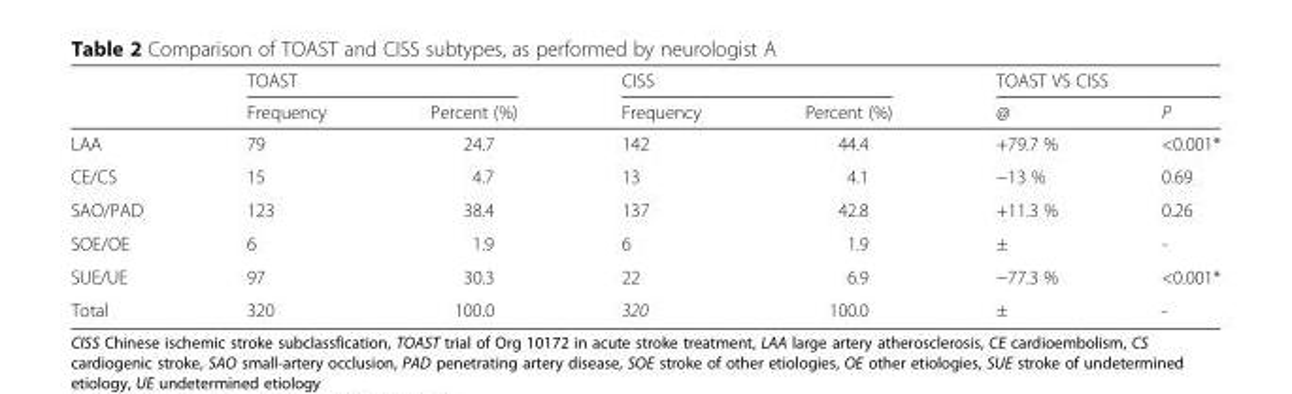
<table><thead><tr><td rowspan="2"></td><td colspan="2">TOAST</td><td colspan="2">CISS</td><td colspan="2">TOAST VS CISS</td></tr><tr><td>Frequency</td><td>Percent (%)</td><td>Frequency</td><td>Percent (%)</td><td>@</td><td>P</td></tr></thead><tbody><tr><td>LAA</td><td>79</td><td>24.7</td><td>142</td><td>44.4</td><td>+79.7 %</td><td>&lt;0.001*</td></tr><tr><td>CE/CS</td><td>15</td><td>4.7</td><td>13</td><td>4.1</td><td>−13 %</td><td>0.69</td></tr><tr><td>SAO/PAD</td><td>123</td><td>38.4</td><td>137</td><td>42.8</td><td>+11.3 %</td><td>0.26</td></tr><tr><td>SOE/OE</td><td>6</td><td>1.9</td><td>6</td><td>1.9</td><td>±</td><td>-</td></tr><tr><td>SUE/UE</td><td>97</td><td>30.3</td><td>22</td><td>6.9</td><td>−77.3 %</td><td>&lt;0.001*</td></tr><tr><td>Total</td><td>320</td><td>100.0</td><td>320</td><td>100.0</td><td>±</td><td>-</td></tr></tbody></table>